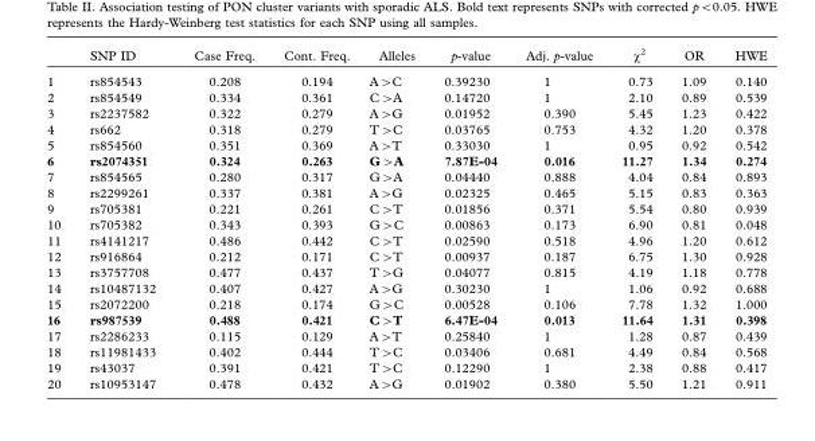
<table><thead><tr><td></td><td>SNP ID</td><td>Case Freq.</td><td>Cont. Freq.</td><td>Alleles</td><td>p-value</td><td>Adj. p-value</td><td>χ<sup>2</sup></td><td>OR</td><td>HWE</td></tr></thead><tbody><tr><td>1</td><td>rs854543</td><td>0.208</td><td>0.194</td><td>A&gt;C</td><td>0.39230</td><td>1</td><td>0.73</td><td>1.09</td><td>0.140</td></tr><tr><td>2</td><td>rs854549</td><td>0.334</td><td>0.361</td><td>C&gt;A</td><td>0.14720</td><td>1</td><td>2.10</td><td>0.89</td><td>0.539</td></tr><tr><td>3</td><td>rs2237582</td><td>0.322</td><td>0.279</td><td>A&gt;G</td><td>0.01952</td><td>0.390</td><td>5.45</td><td>1.23</td><td>0.422</td></tr><tr><td>4</td><td>rs662</td><td>0.318</td><td>0.279</td><td>T&gt;C</td><td>0.03765</td><td>0.753</td><td>4.32</td><td>1.20</td><td>0.378</td></tr><tr><td>5</td><td>rs854560</td><td>0.351</td><td>0.369</td><td>A&gt;T</td><td>0.33030</td><td>1</td><td>0.95</td><td>0.92</td><td>0.542</td></tr><tr><td>6</td><td>rs2074351</td><td>0.324</td><td>0.263</td><td>G&gt;A</td><td>7.87E-04</td><td>0.016</td><td>11.27</td><td>1.34</td><td>0.274</td></tr><tr><td>7</td><td>rs854565</td><td>0.280</td><td>0.317</td><td>G&gt;A</td><td>0.04440</td><td>0.888</td><td>4.04</td><td>0.84</td><td>0.893</td></tr><tr><td>8</td><td>rs2299261</td><td>0.337</td><td>0.381</td><td>A&gt;G</td><td>0.02325</td><td>0.465</td><td>5.15</td><td>0.83</td><td>0.363</td></tr><tr><td>9</td><td>rs705381</td><td>0.221</td><td>0.261</td><td>C&gt;T</td><td>0.01856</td><td>0.371</td><td>5.54</td><td>0.80</td><td>0.939</td></tr><tr><td>10</td><td>rs705382</td><td>0.343</td><td>0.393</td><td>G&gt;C</td><td>0.00863</td><td>0.173</td><td>6.90</td><td>0.81</td><td>0.048</td></tr><tr><td>11</td><td>rs4141217</td><td>0.486</td><td>0.442</td><td>C&gt;T</td><td>0.02590</td><td>0.518</td><td>4.96</td><td>1.20</td><td>0.612</td></tr><tr><td>12</td><td>rs916864</td><td>0.212</td><td>0.171</td><td>C&gt;T</td><td>0.00937</td><td>0.187</td><td>6.75</td><td>1.30</td><td>0.928</td></tr><tr><td>13</td><td>rs3757708</td><td>0.477</td><td>0.437</td><td>T&gt;G</td><td>0.04077</td><td>0.815</td><td>4.19</td><td>1.18</td><td>0.778</td></tr><tr><td>14</td><td>rs10487132</td><td>0.407</td><td>0.427</td><td>A&gt;G</td><td>0.30230</td><td>1</td><td>1.06</td><td>0.92</td><td>0.688</td></tr><tr><td>15</td><td>rs2072200</td><td>0.218</td><td>0.174</td><td>G&gt;C</td><td>0.00528</td><td>0.106</td><td>7.78</td><td>1.32</td><td>1.000</td></tr><tr><td>16</td><td>rs987539</td><td>0.488</td><td>0.421</td><td>C&gt;T</td><td>6.47E-04</td><td>0.013</td><td>11.64</td><td>1.31</td><td>0.398</td></tr><tr><td>17</td><td>rs2286233</td><td>0.115</td><td>0.129</td><td>A&gt;T</td><td>0.25840</td><td>1</td><td>1.28</td><td>0.87</td><td>0.439</td></tr><tr><td>18</td><td>rs11981433</td><td>0.402</td><td>0.444</td><td>T&gt;C</td><td>0.03406</td><td>0.681</td><td>4.49</td><td>0.84</td><td>0.568</td></tr><tr><td>19</td><td>rs43037</td><td>0.391</td><td>0.421</td><td>T&gt;C</td><td>0.12290</td><td>1</td><td>2.38</td><td>0.88</td><td>0.417</td></tr><tr><td>20</td><td>rs10953147</td><td>0.478</td><td>0.432</td><td>A&gt;G</td><td>0.01902</td><td>0.380</td><td>5.50</td><td>1.21</td><td>0.911</td></tr></tbody></table>